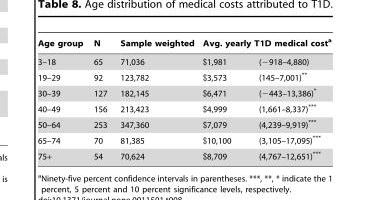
<table><thead><tr><td rowspan="2">Age group 3–18</td><td rowspan="2">N 65</td><td rowspan="2">Sample weighted 71,036</td><td colspan="2">Avg. yearly T1D medical cost<sup>a</sup></td></tr><tr><td>$1,981</td><td>(−918–4,880)</td></tr></thead><tbody><tr><td>19–29</td><td>92</td><td>123,782</td><td>$3,573</td><td>(145–7,001)**</td></tr><tr><td>30–39</td><td>127</td><td>182,145</td><td>$6,471</td><td>(−443–13,386)*</td></tr><tr><td>40–49</td><td>156</td><td>213,423</td><td>$4,999</td><td>(1,661–8,337)***</td></tr><tr><td>50–64</td><td>253</td><td>347,360</td><td>$7,079</td><td>(4,239–9,919)***</td></tr><tr><td>65–74</td><td>70</td><td>81,385</td><td>$10,100</td><td>(3,105–17,095)***</td></tr><tr><td>75+</td><td>54</td><td>70,624</td><td>$8,709</td><td>(4,767–12,651)***</td></tr></tbody></table>